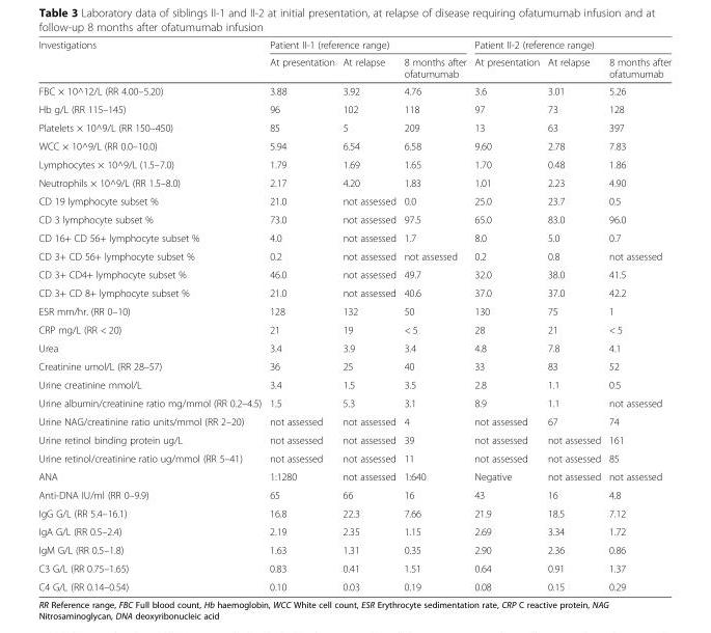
<table><thead><tr><td rowspan="2">Investigations</td><td colspan="3">Patient II-1 (reference range)</td><td colspan="3">Patient II-2 (reference range)</td></tr><tr><td>At presentation</td><td>At relapse</td><td>8 months after ofatumumab</td><td>At presentation</td><td>At relapse</td><td>8 months after ofatumumab</td></tr></thead><tbody><tr><td>FBC × 10^12/L (RR 4.00–5.20)</td><td>3.88</td><td>3.92</td><td>4.76</td><td>3.6</td><td>3.01</td><td>5.26</td></tr><tr><td>Hb g/L (RR 115–145)</td><td>96</td><td>102</td><td>118</td><td>97</td><td>73</td><td>128</td></tr><tr><td>Platelets × 10^9/L (RR 150–450)</td><td>85</td><td>5</td><td>209</td><td>13</td><td>63</td><td>397</td></tr><tr><td>WCC × 10^9/L (RR 0.0–10.0)</td><td>5.94</td><td>6.54</td><td>6.58</td><td>9.60</td><td>2.78</td><td>7.83</td></tr><tr><td>Lymphocytes × 10^9/L (1.5–7.0)</td><td>1.79</td><td>1.69</td><td>1.65</td><td>1.70</td><td>0.48</td><td>1.86</td></tr><tr><td>Neutrophils × 10^9/L (RR 1.5–8.0)</td><td>2.17</td><td>4.20</td><td>1.83</td><td>1.01</td><td>2.23</td><td>4.90</td></tr><tr><td>CD 19 lymphocyte subset %</td><td>21.0</td><td>not assessed</td><td>0.0</td><td>25.0</td><td>23.7</td><td>0.5</td></tr><tr><td>CD 3 lymphocyte subset %</td><td>73.0</td><td>not assessed</td><td>97.5</td><td>65.0</td><td>83.0</td><td>96.0</td></tr><tr><td>CD 16+ CD 56+ lymphocyte subset %</td><td>4.0</td><td>not assessed</td><td>1.7</td><td>8.0</td><td>5.0</td><td>0.7</td></tr><tr><td>CD 3+ CD 56+ lymphocyte subset %</td><td>0.2</td><td>not assessed</td><td>not assessed</td><td>0.2</td><td>0.8</td><td>not assessed</td></tr><tr><td>CD 3+ CD4+ lymphocyte subset %</td><td>46.0</td><td>not assessed</td><td>49.7</td><td>32.0</td><td>38.0</td><td>41.5</td></tr><tr><td>CD 3+ CD 8+ lymphocyte subset %</td><td>21.0</td><td>not assessed</td><td>40.6</td><td>37.0</td><td>37.0</td><td>42.2</td></tr><tr><td>ESR mm/hr. (RR 0–10)</td><td>128</td><td>132</td><td>50</td><td>130</td><td>75</td><td>1</td></tr><tr><td>CRP mg/L (RR &lt; 20)</td><td>21</td><td>19</td><td>&lt; 5</td><td>28</td><td>21</td><td>&lt; 5</td></tr><tr><td>Urea</td><td>3.4</td><td>3.9</td><td>3.4</td><td>4.8</td><td>7.8</td><td>4.1</td></tr><tr><td>Creatinine umol/L (RR 28–57)</td><td>36</td><td>25</td><td>40</td><td>33</td><td>83</td><td>52</td></tr><tr><td>Urine creatinine mmol/L</td><td>3.4</td><td>1.5</td><td>3.5</td><td>2.8</td><td>1.1</td><td>0.5</td></tr><tr><td>Urine albumin/creatinine ratio mg/mmol (RR 0.2–4.5)</td><td>1.5</td><td>5.3</td><td>3.1</td><td>8.9</td><td>1.1</td><td>not assessed</td></tr><tr><td>Urine NAG/creatinine ratio units/mmol (RR 2–20)</td><td>not assessed</td><td>not assessed</td><td>4</td><td>not assessed</td><td>67</td><td>74</td></tr><tr><td>Urine retinol binding protein ug/L</td><td>not assessed</td><td>not assessed</td><td>39</td><td>not assessed</td><td>not assessed</td><td>161</td></tr><tr><td>Urine retinol/creatinine ratio ug/mmol (RR 5–41)</td><td>not assessed</td><td>not assessed</td><td>11</td><td>not assessed</td><td>not assessed</td><td>85</td></tr><tr><td>ANA</td><td>1:1280</td><td>not assessed</td><td>1:640</td><td>Negative</td><td>not assessed</td><td>not assessed</td></tr><tr><td>Anti-DNA IU/ml (RR 0–9.9)</td><td>65</td><td>66</td><td>16</td><td>43</td><td>16</td><td>4.8</td></tr><tr><td>IgG G/L (RR 5.4–16.1)</td><td>16.8</td><td>22.3</td><td>7.66</td><td>21.9</td><td>18.5</td><td>7.12</td></tr><tr><td>IgA G/L (RR 0.5–2.4)</td><td>2.19</td><td>2.35</td><td>1.15</td><td>2.69</td><td>3.34</td><td>1.72</td></tr><tr><td>IgM G/L (RR 0.5–1.8)</td><td>1.63</td><td>1.31</td><td>0.35</td><td>2.90</td><td>2.36</td><td>0.86</td></tr><tr><td>C3 G/L (RR 0.75–1.65)</td><td>0.83</td><td>0.41</td><td>1.51</td><td>0.64</td><td>0.91</td><td>1.37</td></tr><tr><td>C4 G/L (RR 0.14–0.54)</td><td>0.10</td><td>0.03</td><td>0.19</td><td>0.08</td><td>0.15</td><td>0.29</td></tr></tbody></table>